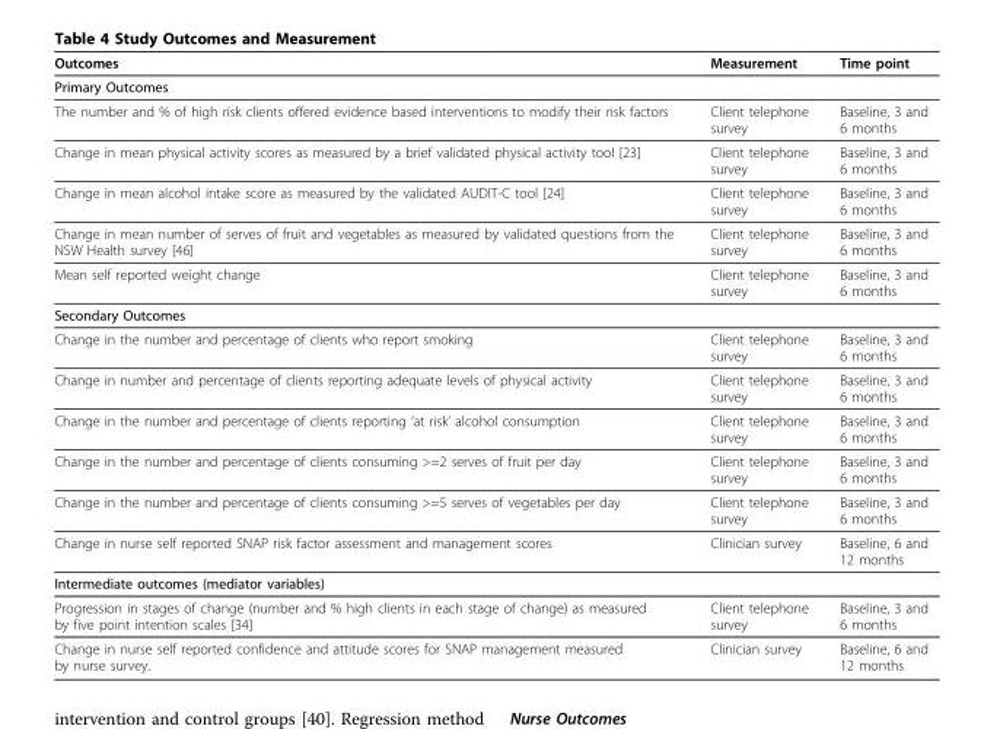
<table><thead><tr><td>Outcomes</td><td>Measurement</td><td>Time point</td></tr></thead><tbody><tr><td colspan="3">Primary Outcomes</td></tr><tr><td>The number and % of high risk clients offered evidence based interventions to modify their risk factors</td><td>Client telephone survey</td><td>Baseline, 3 and 6 months</td></tr><tr><td>Change in mean physical activity scores as measured by a brief validated physical activity tool [23]</td><td>Client telephone survey</td><td>Baseline, 3 and 6 months</td></tr><tr><td>Change in mean alcohol intake score as measured by the validated AUDIT-C tool [24]</td><td>Client telephone survey</td><td>Baseline, 3 and 6 months</td></tr><tr><td>Change in mean number of serves of fruit and vegetables as measured by validated questions from the NSW Health survey [46]</td><td>Client telephone survey</td><td>Baseline, 3 and 6 months</td></tr><tr><td>Mean self reported weight change</td><td>Client telephone survey</td><td>Baseline, 3 and 6 months</td></tr><tr><td colspan="3">Secondary Outcomes</td></tr><tr><td>Change in the number and percentage of clients who report smoking</td><td>Client telephone survey</td><td>Baseline, 3 and 6 months</td></tr><tr><td>Change in number and percentage of clients reporting adequate levels of physical activity</td><td>Client telephone survey</td><td>Baseline, 3 and 6 months</td></tr><tr><td>Change in the number and percentage of clients reporting ‘at risk’ alcohol consumption</td><td>Client telephone survey</td><td>Baseline, 3 and 6 months</td></tr><tr><td>Change in the number and percentage of clients consuming &gt;=2 serves of fruit per day</td><td>Client telephone survey</td><td>Baseline, 3 and 6 months</td></tr><tr><td>Change in the number and percentage of clients consuming &gt;=5 serves of vegetables per day</td><td>Client telephone survey</td><td>Baseline, 3 and 6 months</td></tr><tr><td>Change in nurse self reported SNAP risk factor assessment and management scores</td><td>Clinician survey</td><td>Baseline, 6 and 12 months</td></tr><tr><td colspan="3">Intermediate outcomes (mediator variables)</td></tr><tr><td>Progression in stages of change (number and % high clients in each stage of change) as measured by five point intention scales [34]</td><td>Client telephone survey</td><td>Baseline, 3 and 6 months</td></tr><tr><td>Change in nurse self reported confidence and attitude scores for SNAP management measured by nurse survey.</td><td>Clinician survey</td><td>Baseline, 6 and 12 months</td></tr></tbody></table>